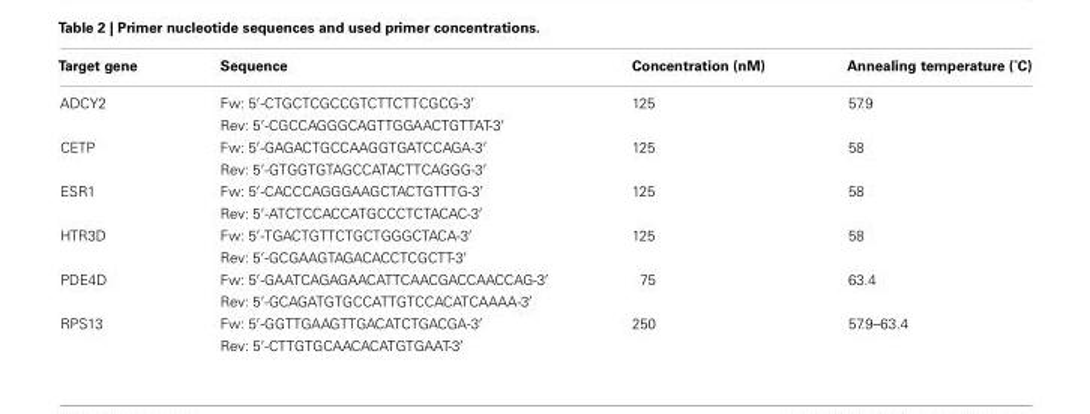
<table><thead><tr><td>Target gene</td><td>Sequence</td><td>Concentration (nM)</td><td>Annealing temperature (˚C)</td></tr></thead><tbody><tr><td rowspan="2">ADCY2</td><td>Fw: 5′-CTGCTCGCCGTCTTCTTCGCG-3′</td><td>125</td><td>57.9</td></tr><tr><td>Rev: 5′-CGCCAGGGCAGTTGGAACTGTTAT-3′</td><td></td><td></td></tr><tr><td rowspan="2">CETP</td><td>Fw: 5′-GAGACTGCCAAGGTGATCCAGA-3′</td><td>125</td><td>58</td></tr><tr><td>Rev: 5′-GTGGTGTAGCCATACTTCAGGG-3′</td><td></td><td></td></tr><tr><td rowspan="2">ESR1</td><td>Fw: 5′-CACCCAGGGAAGCTACTGTTTG-3′</td><td>125</td><td>58</td></tr><tr><td>Rev: 5′-ATCTCCACCATGCCCTCTACAC-3′</td><td></td><td></td></tr><tr><td rowspan="2">HTR3D</td><td>Fw: 5′-TGACTGTTCTGCTGGGCTACA-3′</td><td>125</td><td>58</td></tr><tr><td>Rev: 5′-GCGAAGTAGACACCTCGCTT-3′</td><td></td><td></td></tr><tr><td rowspan="2">PDE4D</td><td>Fw: 5′-GAATCAGAGAACATTCAACGACCAACCAG-3′</td><td>75</td><td>63.4</td></tr><tr><td>Rev: 5′-GCAGATGTGCCATTGTCCACATCAAAA-3′</td><td></td><td></td></tr><tr><td rowspan="2">RPS13</td><td>Fw: 5′-GGTTGAAGTTGACATCTGACGA-3′</td><td>250</td><td>57.9–63.4</td></tr><tr><td>Rev: 5′-CTTGTGCAACACATGTGAAT-3′</td><td></td><td></td></tr></tbody></table>